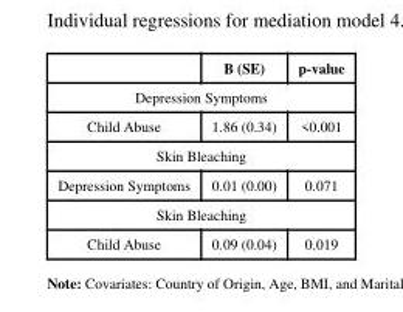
<table><thead><tr><td></td><td>B (SE)</td><td>p-value</td></tr></thead><tbody><tr><td colspan="3">Depression Symptoms</td></tr><tr><td>Child Abuse</td><td>1.86 (0.34)</td><td>&lt;0.001</td></tr><tr><td colspan="3">Skin Bleaching</td></tr><tr><td>Depression Symptoms</td><td>0.01 (0.00)</td><td>0.071</td></tr><tr><td colspan="3">Skin Bleaching</td></tr><tr><td>Child Abuse</td><td>0.09 (0.04)</td><td>0.019</td></tr></tbody></table>